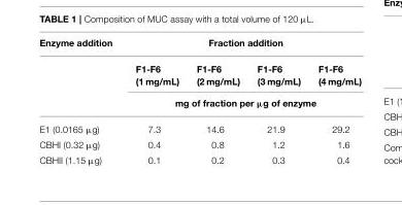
<table><thead><tr><td rowspan="2">Enzyme addition</td><td colspan="4">Fraction addition</td></tr><tr><td>F1-F6 (1 mg/mL)</td><td>F1-F6 (2 mg/mL)</td><td>F1-F6 (3 mg/mL)</td><td>F1-F6 (4 mg/mL)</td></tr></thead><tbody><tr><td></td><td colspan="4">mg of fraction per µg of enzyme</td></tr><tr><td>E1 (0.0165 µg)</td><td>7.3</td><td>14.6</td><td>21.9</td><td>29.2</td></tr><tr><td>CBHI (0.32 µg)</td><td>0.4</td><td>0.8</td><td>1.2</td><td>1.6</td></tr><tr><td>CBHII (1.15 µg)</td><td>0.1</td><td>0.2</td><td>0.3</td><td>0.4</td></tr></tbody></table>